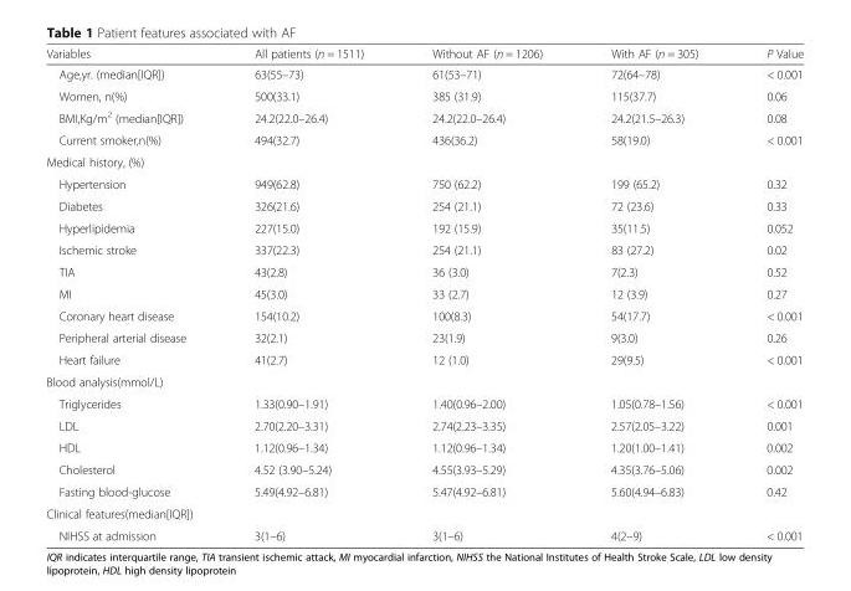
<table><thead><tr><td>Variables</td><td>All patients (n = 1511)</td><td>Without AF (n = 1206)</td><td>With AF (n = 305)</td><td>P Value</td></tr></thead><tbody><tr><td>Age,yr. (median[IQR])</td><td>63(55–73)</td><td>61(53–71)</td><td>72(64–78)</td><td>&lt; 0.001</td></tr><tr><td>Women, n(%)</td><td>500(33.1)</td><td>385 (31.9)</td><td>115(37.7)</td><td>0.06</td></tr><tr><td>BMI,Kg/m<sup>2</sup> (median[IQR])</td><td>24.2(22.0–26.4)</td><td>24.2(22.0–26.4)</td><td>24.2(21.5–26.3)</td><td>0.08</td></tr><tr><td>Current smoker,n(%)</td><td>494(32.7)</td><td>436(36.2)</td><td>58(19.0)</td><td>&lt; 0.001</td></tr><tr><td colspan="5">Medical history, (%)</td></tr><tr><td>Hypertension</td><td>949(62.8)</td><td>750 (62.2)</td><td>199 (65.2)</td><td>0.32</td></tr><tr><td>Diabetes</td><td>326(21.6)</td><td>254 (21.1)</td><td>72 (23.6)</td><td>0.33</td></tr><tr><td>Hyperlipidemia</td><td>227(15.0)</td><td>192 (15.9)</td><td>35(11.5)</td><td>0.052</td></tr><tr><td>Ischemic stroke</td><td>337(22.3)</td><td>254 (21.1)</td><td>83 (27.2)</td><td>0.02</td></tr><tr><td>TIA</td><td>43(2.8)</td><td>36 (3.0)</td><td>7(2.3)</td><td>0.52</td></tr><tr><td>MI</td><td>45(3.0)</td><td>33 (2.7)</td><td>12 (3.9)</td><td>0.27</td></tr><tr><td>Coronary heart disease</td><td>154(10.2)</td><td>100(8.3)</td><td>54(17.7)</td><td>&lt; 0.001</td></tr><tr><td>Peripheral arterial disease</td><td>32(2.1)</td><td>23(1.9)</td><td>9(3.0)</td><td>0.26</td></tr><tr><td>Heart failure</td><td>41(2.7)</td><td>12 (1.0)</td><td>29(9.5)</td><td>&lt; 0.001</td></tr><tr><td colspan="5">Blood analysis(mmol/L)</td></tr><tr><td>Triglycerides</td><td>1.33(0.90–1.91)</td><td>1.40(0.96–2.00)</td><td>1.05(0.78–1.56)</td><td>&lt; 0.001</td></tr><tr><td>LDL</td><td>2.70(2.20–3.31)</td><td>2.74(2.23–3.35)</td><td>2.57(2.05–3.22)</td><td>0.001</td></tr><tr><td>HDL</td><td>1.12(0.96–1.34)</td><td>1.12(0.96–1.34)</td><td>1.20(1.00–1.41)</td><td>0.002</td></tr><tr><td>Cholesterol</td><td>4.52 (3.90–5.24)</td><td>4.55(3.93–5.29)</td><td>4.35(3.76–5.06)</td><td>0.002</td></tr><tr><td>Fasting blood-glucose</td><td>5.49(4.92–6.81)</td><td>5.47(4.92–6.81)</td><td>5.60(4.94–6.83)</td><td>0.42</td></tr><tr><td colspan="5">Clinical features(median[IQR])</td></tr><tr><td>NIHSS at admission</td><td>3(1–6)</td><td>3(1–6)</td><td>4(2–9)</td><td>&lt; 0.001</td></tr></tbody></table>